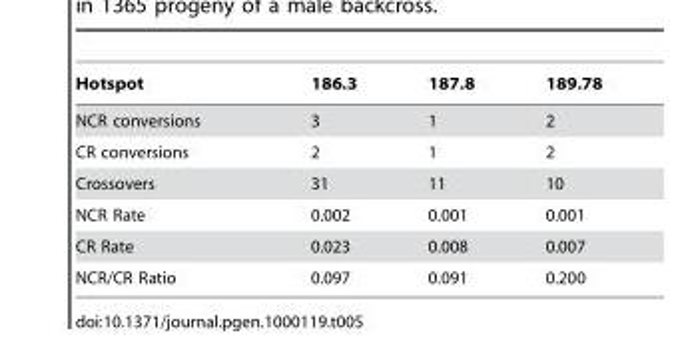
<table><thead><tr><td>Hotspot</td><td>186.3</td><td>187.8</td><td>189.78</td></tr></thead><tbody><tr><td>NCR conversions</td><td>3</td><td>1</td><td>2</td></tr><tr><td>CR conversions</td><td>2</td><td>1</td><td>2</td></tr><tr><td>Crossovers</td><td>31</td><td>11</td><td>10</td></tr><tr><td>NCR Rate</td><td>0.002</td><td>0.001</td><td>0.001</td></tr><tr><td>CR Rate</td><td>0.023</td><td>0.008</td><td>0.007</td></tr><tr><td>NCR/CR Ratio</td><td>0.097</td><td>0.091</td><td>0.200</td></tr></tbody></table>